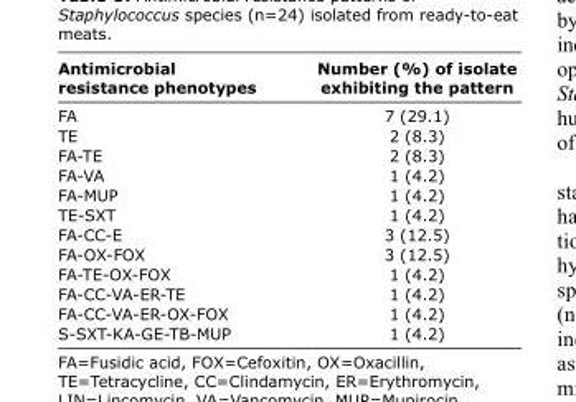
<table><thead><tr><td>Antimicrobial resistance phenotypes</td><td>Number (%) of isolate exhibiting the pattern</td></tr></thead><tbody><tr><td>FA</td><td>7 (29.1)</td></tr><tr><td>TE</td><td>2 (8.3)</td></tr><tr><td>FA-TE</td><td>2 (8.3)</td></tr><tr><td>FA-VA</td><td>1 (4.2)</td></tr><tr><td>FA-MUP</td><td>1 (4.2)</td></tr><tr><td>TE-SXT</td><td>1 (4.2)</td></tr><tr><td>FA-CC-E</td><td>3 (12.5)</td></tr><tr><td>FA-OX-FOX</td><td>3 (12.5)</td></tr><tr><td>FA-TE-OX-FOX</td><td>1 (4.2)</td></tr><tr><td>FA-CC-VA-ER-TE</td><td>1 (4.2)</td></tr><tr><td>FA-CC-VA-ER-OX-FOX</td><td>1 (4.2)</td></tr><tr><td>S-SXT-KA-GE-TB-MUP</td><td>1 (4.2)</td></tr></tbody></table>